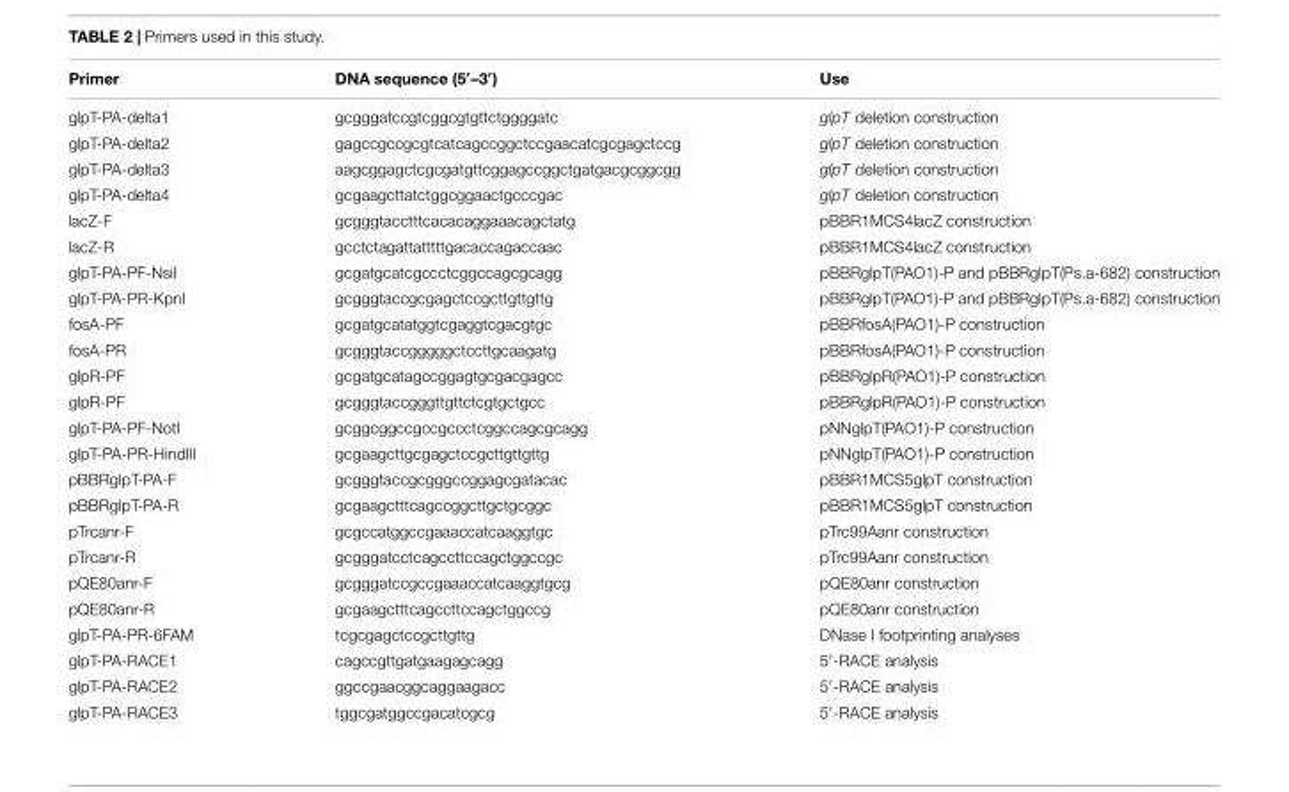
<table><thead><tr><td>Primer</td><td>DNA sequence (5′–3′)</td><td>Use</td></tr></thead><tbody><tr><td>glpT-PA-delta1</td><td>gcgggatccgtcggcgtgttctggggatc</td><td>glpT deletion construction</td></tr><tr><td>glpT-PA-delta2</td><td>gagccgccgcgtcatcagccggctccgaacatcgcgagctccg</td><td>glpT deletion construction</td></tr><tr><td>glpT-PA-delta3</td><td>aagcggagctcgcgatgttcggagccggctgatgacgcggcgg</td><td>glpT deletion construction</td></tr><tr><td>glpT-PA-delta4</td><td>gcgaagcttatctggcggaactgcccgac</td><td>glpT deletion construction</td></tr><tr><td>lacZ-F</td><td>gcgggtacctttcacacaggaaacagctatg</td><td>pBBR1MCS4lacZ construction</td></tr><tr><td>lacZ-R</td><td>gcctctagattatttttgacaccagaccaac</td><td>pBBR1MCS4lacZ construction</td></tr><tr><td>glpT-PA-PF-NsiI</td><td>gcgatgcatcgccctcggccagcgcagg</td><td>pBBRglpT(PAO1)-P and pBBRglpT(Ps.a-682) construction</td></tr><tr><td>glpT-PA-PR-KpnI</td><td>gcgggtaccgcgagctccgcttgttgttg</td><td>pBBRglpT(PAO1)-P and pBBRglpT(Ps.a-682) construction</td></tr><tr><td>fosA-PF</td><td>gcgatgcatatggtcgaggtcgacgtgc</td><td>pBBRfosA(PAO1)-P construction</td></tr><tr><td>fosA-PR</td><td>gcgggtaccgggggctccttgcaagatg</td><td>pBBRfosA(PAO1)-P construction</td></tr><tr><td>glpR-PF</td><td>gcgatgcatagccggagtgcgacgagcc</td><td>pBBRglpR(PAO1)-P construction</td></tr><tr><td>glpR-PF</td><td>gcgggtaccgggttgttctcgtgctgcc</td><td>pBBRglpR(PAO1)-P construction</td></tr><tr><td>glpT-PA-PF-NotI</td><td>gcggcggccgccgccctcggccagcgcagg</td><td>pNNglpT(PAO1)-P construction</td></tr><tr><td>glpT-PA-PR-HindIII</td><td>gcgaagcttgcgagctccgcttgttgttg</td><td>pNNglpT(PAO1)-P construction</td></tr><tr><td>pBBRglpT-PA-F</td><td>gcgggtaccgcgggccggagcgatacac</td><td>pBBR1MCS5glpT construction</td></tr><tr><td>pBBRglpT-PA-R</td><td>gcgaagctttcagccggcttgctgcggc</td><td>pBBR1MCS5glpT construction</td></tr><tr><td>pTrcanr-F</td><td>gcgccatggccgaaaccatcaaggtgc</td><td>pTrc99Aanr construction</td></tr><tr><td>pTrcanr-R</td><td>gcgggatcctcagccttccagctggccgc</td><td>pTrc99Aanr construction</td></tr><tr><td>pQE80anr-F</td><td>gcgggatccgccgaaaccatcaaggtgcg</td><td>pQE80anr construction</td></tr><tr><td>pQE80anr-R</td><td>gcgaagctttcagccttccagctggccg</td><td>pQE80anr construction</td></tr><tr><td>glpT-PA-PR-6FAM</td><td>tcgcgagctccgcttgttg</td><td>DNase I footprinting analyses</td></tr><tr><td>glpT-PA-RACE1</td><td>cagccgttgatgaagagcagg</td><td>5′-RACE analysis</td></tr><tr><td>glpT-PA-RACE2</td><td>ggccgaacggcaggaagacc</td><td>5′-RACE analysis</td></tr><tr><td>glpT-PA-RACE3</td><td>tggcgatggccgacatcgcg</td><td>5′-RACE analysis</td></tr></tbody></table>